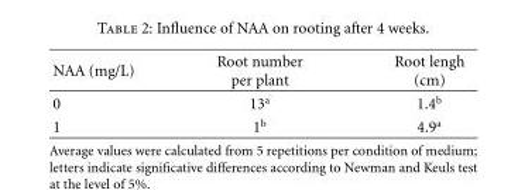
<table><thead><tr><td>NAA (mg/L)</td><td>Root number per plant</td><td>Root lengh (cm)</td></tr></thead><tbody><tr><td>0</td><td>13<sup>a</sup></td><td>1.4<sup>b</sup></td></tr><tr><td>1</td><td>1<sup>b</sup></td><td>4.9<sup>a</sup></td></tr></tbody></table>